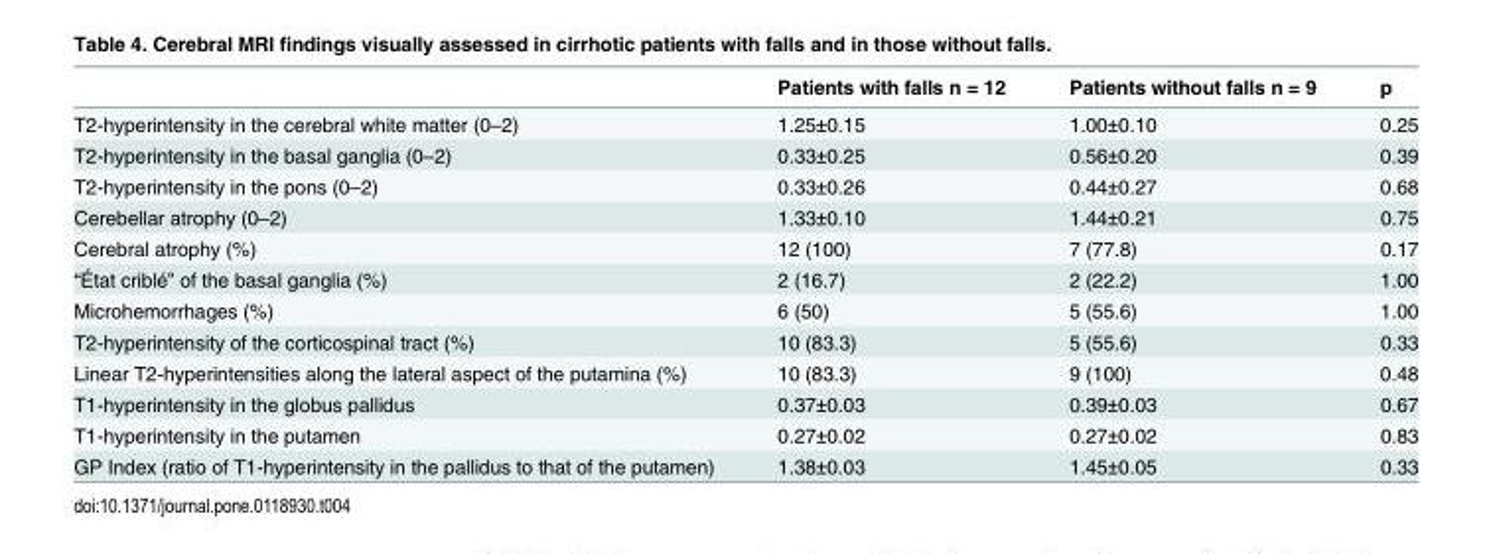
<table><thead><tr><td></td><td>Patients with falls n = 12</td><td>Patients without falls n = 9</td><td>p</td></tr></thead><tbody><tr><td>T2-hyperintensity in the cerebral white matter (0–2)</td><td>1.25±0.15</td><td>1.00±0.10</td><td>0.25</td></tr><tr><td>T2-hyperintensity in the basal ganglia (0–2)</td><td>0.33±0.25</td><td>0.56±0.20</td><td>0.39</td></tr><tr><td>T2-hyperintensity in the pons (0–2)</td><td>0.33±0.26</td><td>0.44±0.27</td><td>0.68</td></tr><tr><td>Cerebellar atrophy (0–2)</td><td>1.33±0.10</td><td>1.44±0.21</td><td>0.75</td></tr><tr><td>Cerebral atrophy (%)</td><td>12 (100)</td><td>7 (77.8)</td><td>0.17</td></tr><tr><td>“État criblé” of the basal ganglia (%)</td><td>2 (16.7)</td><td>2 (22.2)</td><td>1.00</td></tr><tr><td>Microhemorrhages (%)</td><td>6 (50)</td><td>5 (55.6)</td><td>1.00</td></tr><tr><td>T2-hyperintensity of the corticospinal tract (%)</td><td>10 (83.3)</td><td>5 (55.6)</td><td>0.33</td></tr><tr><td>Linear T2-hyperintensities along the lateral aspect of the putamina (%)</td><td>10 (83.3)</td><td>9 (100)</td><td>0.48</td></tr><tr><td>T1-hyperintensity in the globus pallidus</td><td>0.37±0.03</td><td>0.39±0.03</td><td>0.67</td></tr><tr><td>T1-hyperintensity in the putamen</td><td>0.27±0.02</td><td>0.27±0.02</td><td>0.83</td></tr><tr><td>GP Index (ratio of T1-hyperintensity in the pallidus to that of the putamen)</td><td>1.38±0.03</td><td>1.45±0.05</td><td>0.33</td></tr></tbody></table>